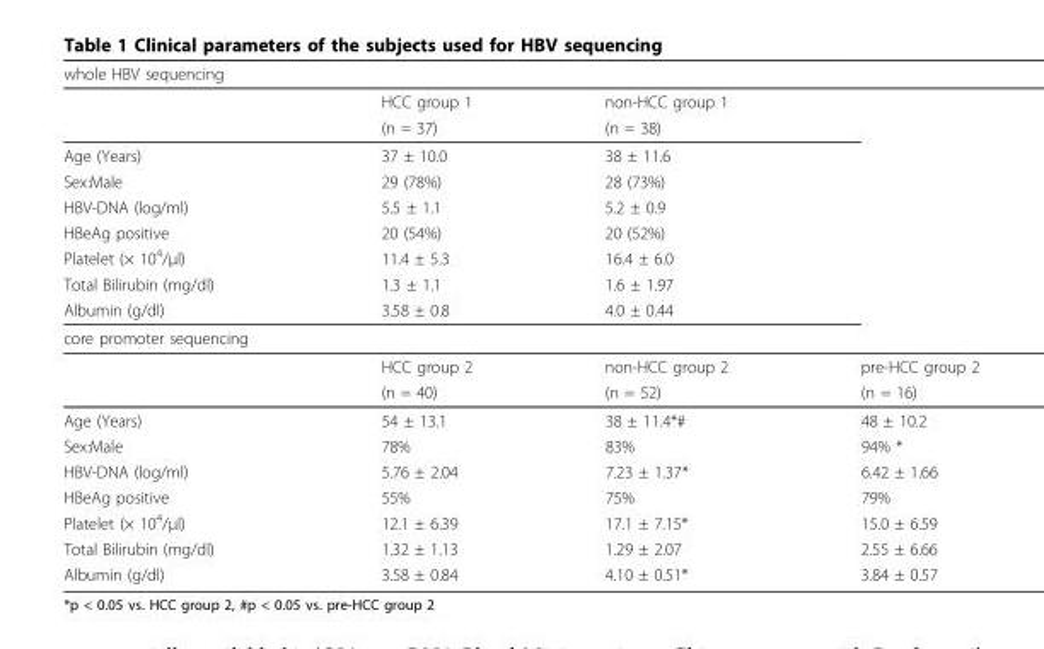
<table><thead><tr><td>whole HBV sequencing</td><td></td><td></td><td></td></tr></thead><tbody><tr><td></td><td>HCC group 1</td><td>non-HCC group 1</td><td></td></tr><tr><td></td><td>(n = 37)</td><td>(n = 38)</td><td></td></tr><tr><td>Age (Years)</td><td>37 ± 10.0</td><td>38 ± 11.6</td><td></td></tr><tr><td>Sex:Male</td><td>29 (78%)</td><td>28 (73%)</td><td></td></tr><tr><td>HBV-DNA (log/ml)</td><td>5.5 ± 1.1</td><td>5.2 ± 0.9</td><td></td></tr><tr><td>HBeAg positive</td><td>20 (54%)</td><td>20 (52%)</td><td></td></tr><tr><td>Platelet (× 10<sup>4</sup>/μl)</td><td>11.4 ± 5.3</td><td>16.4 ± 6.0</td><td></td></tr><tr><td>Total Bilirubin (mg/dl)</td><td>1.3 ± 1.1</td><td>1.6 ± 1.97</td><td></td></tr><tr><td>Albumin (g/dl)</td><td>3.58 ± 0.8</td><td>4.0 ± 0.44</td><td></td></tr><tr><td colspan="4">core promoter sequencing</td></tr><tr><td></td><td>HCC group 2</td><td>non-HCC group 2</td><td>pre-HCC group 2</td></tr><tr><td></td><td>(n = 40)</td><td>(n = 52)</td><td>(n = 16)</td></tr><tr><td>Age (Years)</td><td>54 ± 13.1</td><td>38 ± 11.4*#</td><td>48 ± 10.2</td></tr><tr><td>Sex:Male</td><td>78%</td><td>83%</td><td>94% *</td></tr><tr><td>HBV-DNA (log/ml)</td><td>5.76 ± 2.04</td><td>7.23 ± 1.37*</td><td>6.42 ± 1.66</td></tr><tr><td>HBeAg positive</td><td>55%</td><td>75%</td><td>79%</td></tr><tr><td>Platelet (× 10<sup>4</sup>/μl)</td><td>12.1 ± 6.39</td><td>17.1 ± 7.15*</td><td>15.0 ± 6.59</td></tr><tr><td>Total Bilirubin (mg/dl)</td><td>1.32 ± 1.13</td><td>1.29 ± 2.07</td><td>2.55 ± 6.66</td></tr><tr><td>Albumin (g/dl)</td><td>3.58 ± 0.84</td><td>4.10 ± 0.51*</td><td>3.84 ± 0.57</td></tr></tbody></table>